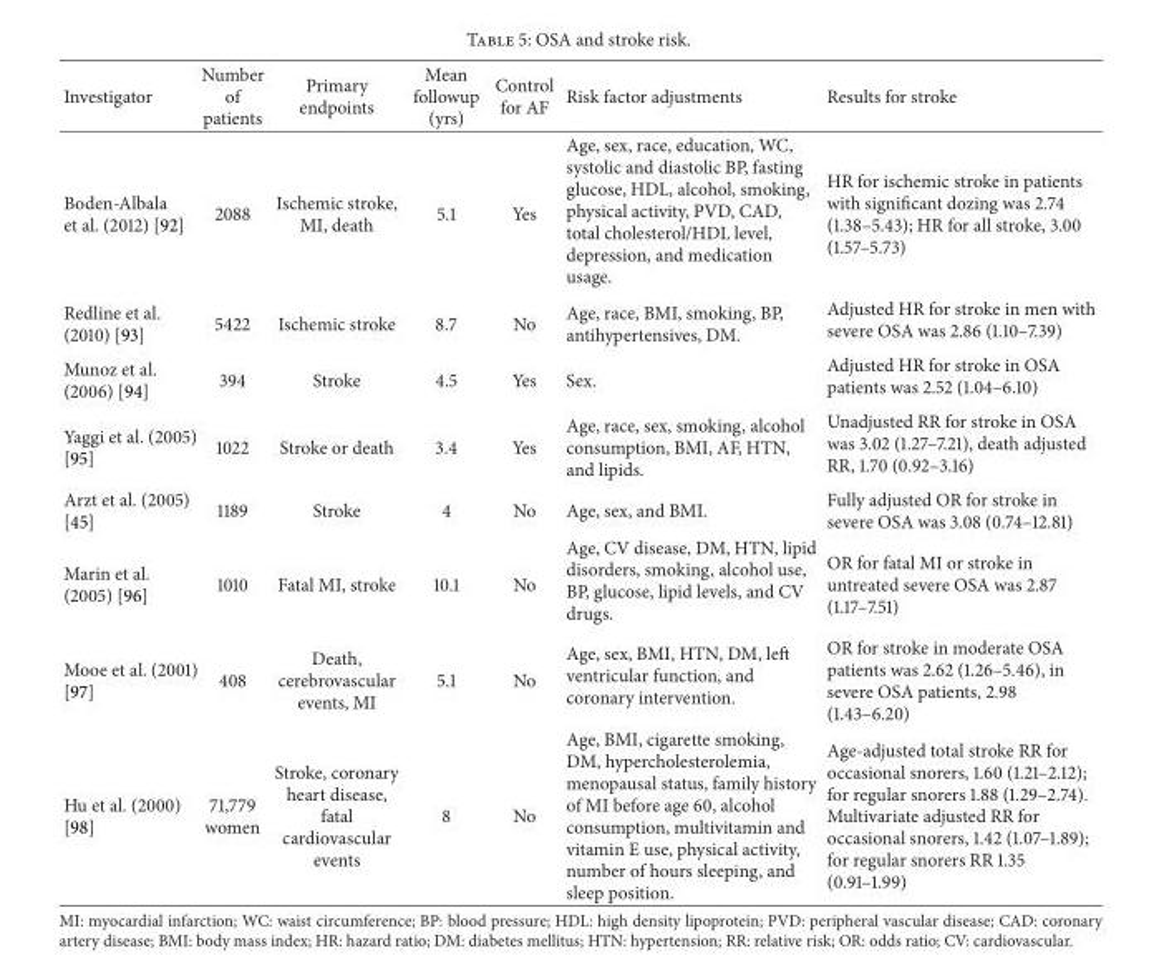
<table><thead><tr><td>Investigator</td><td>Number of patients</td><td>Primary endpoints</td><td>Mean followup (yrs)</td><td>Control for AF</td><td>Risk factor adjustments</td><td>Results for stroke</td></tr></thead><tbody><tr><td>Boden-Albala et al. (2012) [92]</td><td>2088</td><td>Ischemic stroke, MI, death</td><td>5.1</td><td>Yes</td><td>Age, sex, race, education, WC, systolic and diastolic BP, fasting glucose, HDL, alcohol, smoking, physical activity, PVD, CAD, total cholesterol/HDL level, depression, and medication usage.</td><td>HR for ischemic stroke in patients with significant dozing was 2.74 (1.38–5.43); HR for all stroke, 3.00 (1.57–5.73)</td></tr><tr><td>Redline et al. (2010) [93]</td><td>5422</td><td>Ischemic stroke</td><td>8.7</td><td>No</td><td>Age, race, BMI, smoking, BP, antihypertensives, DM.</td><td>Adjusted HR for stroke in men with severe OSA was 2.86 (1.10–7.39)</td></tr><tr><td>Munoz et al. (2006) [94]</td><td>394</td><td>Stroke</td><td>4.5</td><td>Yes</td><td>Sex.</td><td>Adjusted HR for stroke in OSA patients was 2.52 (1.04–6.10)</td></tr><tr><td>Yaggi et al. (2005) [95]</td><td>1022</td><td>Stroke or death</td><td>3.4</td><td>Yes</td><td>Age, race, sex, smoking, alcohol consumption, BMI, AF, HTN, and lipids.</td><td>Unadjusted RR for stroke in OSA was 3.02 (1.27–7.21), death adjusted RR, 1.70 (0.92–3.16)</td></tr><tr><td>Arzt et al. (2005) [45]</td><td>1189</td><td>Stroke</td><td>4</td><td>No</td><td>Age, sex, and BMI.</td><td>Fully adjusted OR for stroke in severe OSA was 3.08 (0.74–12.81)</td></tr><tr><td>Marin et al. (2005) [96]</td><td>1010</td><td>Fatal MI, stroke</td><td>10.1</td><td>No</td><td>Age, CV disease, DM, HTN, lipid disorders, smoking, alcohol use, BP, glucose, lipid levels, and CV drugs.</td><td>OR for fatal MI or stroke in untreated severe OSA was 2.87 (1.17–7.51)</td></tr><tr><td>Mooe et al. (2001) [97]</td><td>408</td><td>Death, cerebrovascular events, MI</td><td>5.1</td><td>No</td><td>Age, sex, BMI, HTN, DM, left ventricular function, and coronary intervention.</td><td>OR for stroke in moderate OSA patients was 2.62 (1.26–5.46), in severe OSA patients, 2.98 (1.43–6.20)</td></tr><tr><td>Hu et al. (2000) [98]</td><td>71,779 women</td><td>Stroke, coronary heart disease, fatal cardiovascular events</td><td>8</td><td>No</td><td>Age, BMI, cigarette smoking, DM, hypercholesterolemia, menopausal status, family history of MI before age 60, alcohol consumption, multivitamin and vitamin E use, physical activity, number of hours sleeping, and sleep position.</td><td>Age-adjusted total stroke RR for occasional snorers, 1.60 (1.21–2.12); for regular snorers 1.88 (1.29–2.74). Multivariate adjusted RR for occasional snorers, 1.42 (1.07–1.89); for regular snorers RR 1.35 (0.91–1.99)</td></tr></tbody></table>